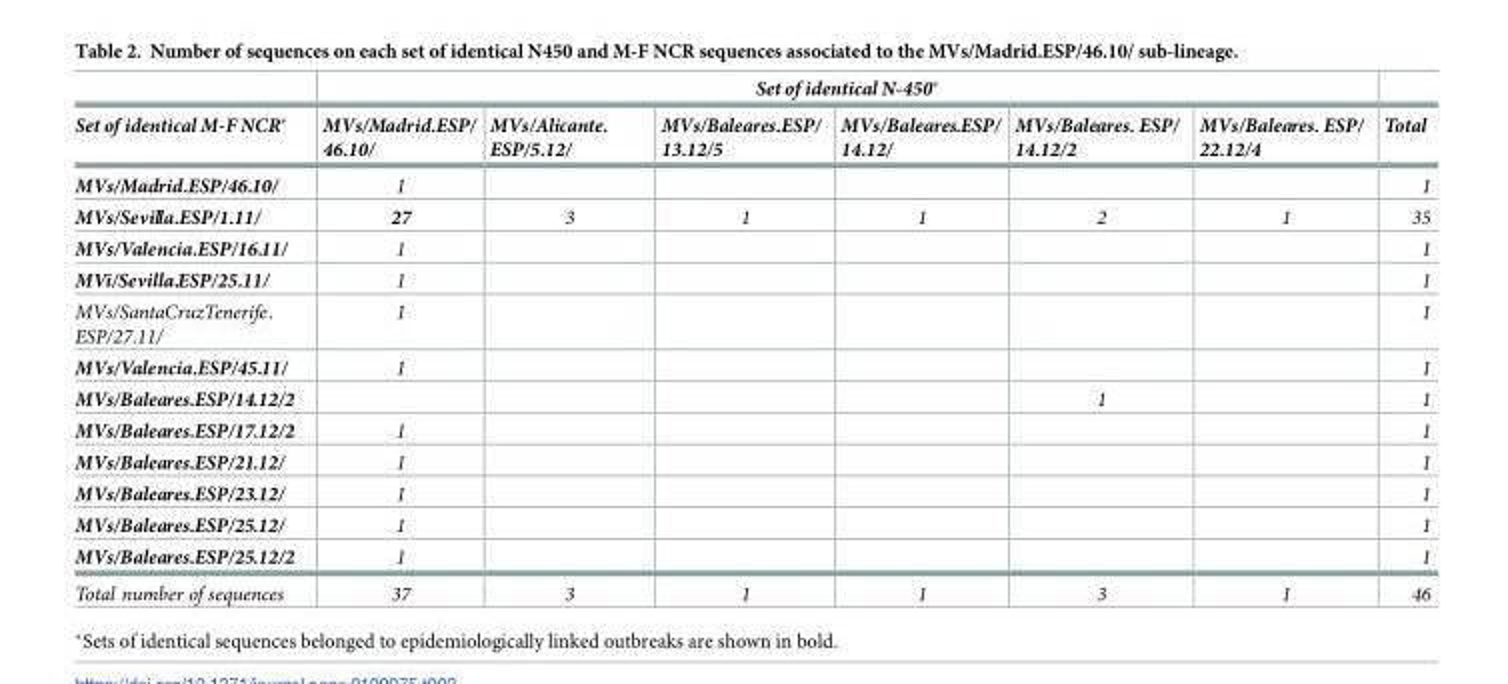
<table><thead><tr><td rowspan="2">Set of identical M-F NCR*</td><td colspan="6">Set of identical N-450*</td><td rowspan="2">Total</td></tr><tr><td>MVs/Madrid.ESP/ 46.10/</td><td>MVs/Alicante. ESP/5.12/</td><td>MVs/Baleares.ESP/ 13.12/5</td><td>MVs/Baleares.ESP/ 14.12/</td><td>MVs/Baleares. ESP/ 14.12/2</td><td>MVs/Baleares. ESP/ 22.12/4</td></tr></thead><tbody><tr><td>MVs/Madrid.ESP/46.10/</td><td>1</td><td></td><td></td><td></td><td></td><td></td><td>1</td></tr><tr><td>MVs/Sevilla.ESP/1.11/</td><td>27</td><td>3</td><td>1</td><td>1</td><td>2</td><td>1</td><td>35</td></tr><tr><td>MVs/Valencia.ESP/16.11/</td><td>1</td><td></td><td></td><td></td><td></td><td></td><td>1</td></tr><tr><td>MVi/Sevilla.ESP/25.11/</td><td>1</td><td></td><td></td><td></td><td></td><td></td><td>1</td></tr><tr><td>MVs/SantaCruzTenerife. ESP/27.11/</td><td>1</td><td></td><td></td><td></td><td></td><td></td><td>1</td></tr><tr><td>MVs/Valencia.ESP/45.11/</td><td>1</td><td></td><td></td><td></td><td></td><td></td><td>1</td></tr><tr><td>MVs/Baleares.ESP/14.12/2</td><td></td><td></td><td></td><td></td><td>1</td><td></td><td>1</td></tr><tr><td>MVs/Baleares.ESP/17.12/2</td><td>1</td><td></td><td></td><td></td><td></td><td></td><td>1</td></tr><tr><td>MVs/Baleares.ESP/21.12/</td><td>1</td><td></td><td></td><td></td><td></td><td></td><td>1</td></tr><tr><td>MVs/Baleares.ESP/23.12/</td><td>1</td><td></td><td></td><td></td><td></td><td></td><td>1</td></tr><tr><td>MVs/Baleares.ESP/25.12/</td><td>1</td><td></td><td></td><td></td><td></td><td></td><td>1</td></tr><tr><td>MVs/Baleares.ESP/25.12/2</td><td>1</td><td></td><td></td><td></td><td></td><td></td><td>1</td></tr><tr><td>Total number of sequences</td><td>37</td><td>3</td><td>1</td><td>1</td><td>3</td><td>1</td><td>46</td></tr></tbody></table>